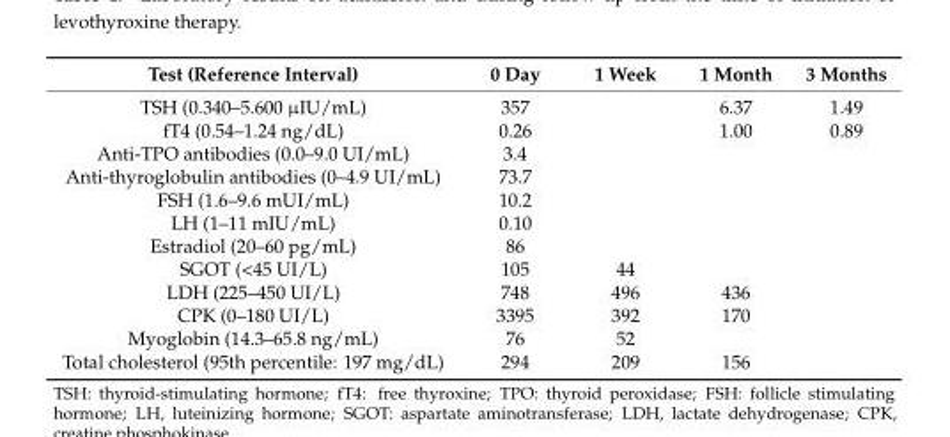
<table><thead><tr><td>Test (Reference Interval)</td><td>0 Day</td><td>1 Week</td><td>1 Month</td><td>3 Months</td></tr></thead><tbody><tr><td>TSH (0.340–5.600 µIU/mL)</td><td>357</td><td></td><td>6.37</td><td>1.49</td></tr><tr><td>fT4 (0.54–1.24 ng/dL)</td><td>0.26</td><td></td><td>1.00</td><td>0.89</td></tr><tr><td>Anti-TPO antibodies (0.0–9.0 UI/mL)</td><td>3.4</td><td></td><td></td><td></td></tr><tr><td>Anti-thyroglobulin antibodies (0–4.9 UI/mL)</td><td>73.7</td><td></td><td></td><td></td></tr><tr><td>FSH (1.6–9.6 mUI/mL)</td><td>10.2</td><td></td><td></td><td></td></tr><tr><td>LH (1–11 mIU/mL)</td><td>0.10</td><td></td><td></td><td></td></tr><tr><td>Estradiol (20–60 pg/mL)</td><td>86</td><td></td><td></td><td></td></tr><tr><td>SGOT (&lt;45 UI/L)</td><td>105</td><td>44</td><td></td><td></td></tr><tr><td>LDH (225–450 UI/L)</td><td>748</td><td>496</td><td>436</td><td></td></tr><tr><td>CPK (0–180 UI/L)</td><td>3395</td><td>392</td><td>170</td><td></td></tr><tr><td>Myoglobin (14.3–65.8 ng/mL)</td><td>76</td><td>52</td><td></td><td></td></tr><tr><td>Total cholesterol (95th percentile: 197 mg/dL)</td><td>294</td><td>209</td><td>156</td><td></td></tr></tbody></table>